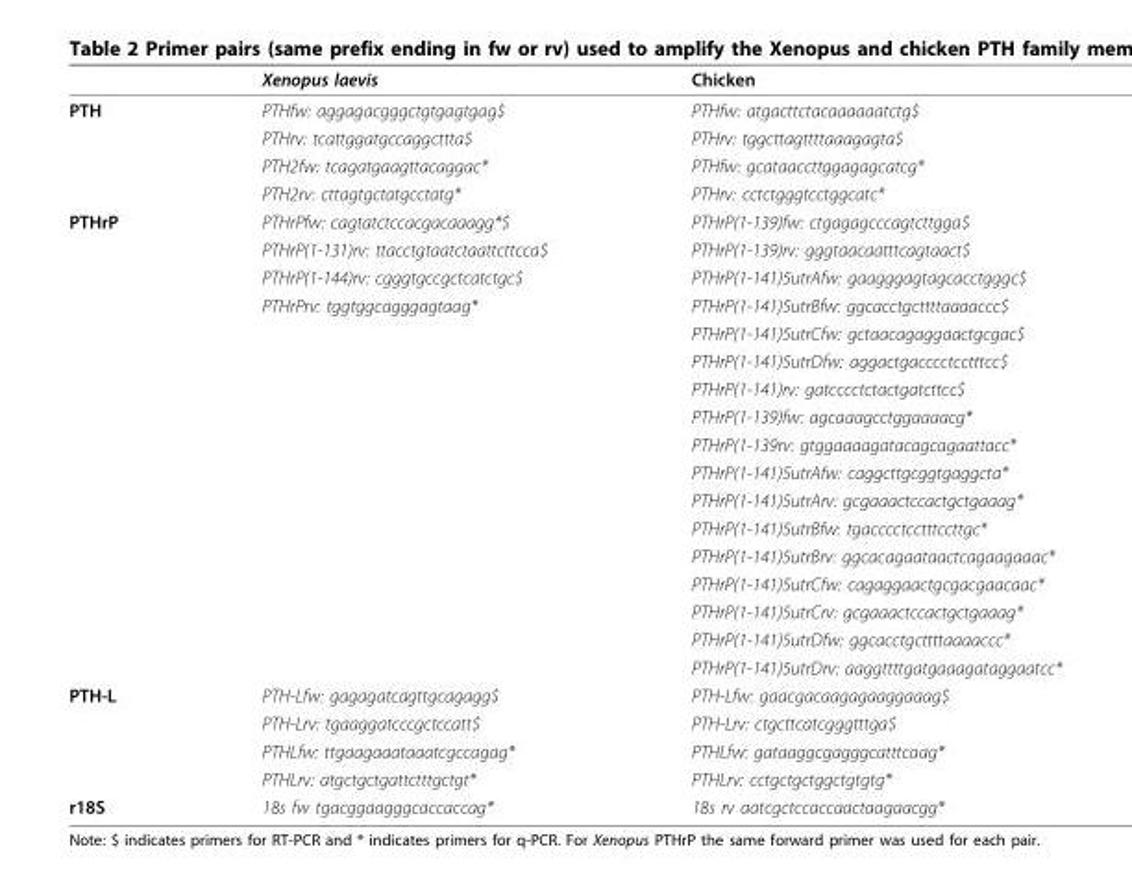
<table><thead><tr><td></td><td>Xenopus laevis</td><td>Chicken</td></tr></thead><tbody><tr><td rowspan="4">PTH</td><td>PTHfw: aggagacgggctgtgagtgag$</td><td>PTHfw: atgacttctacaaaaaatctg$</td></tr><tr><td>PTHrv: tcattggatgccaggcttta$</td><td>PTHrv: tggcttagttttaaagagta$</td></tr><tr><td>PTH2fw: tcagatgaagttacaggac*</td><td>PTHfw: gcataaccttggagagcatcg*</td></tr><tr><td>PTH2rv: cttagtgctatgcctatg*</td><td>PTHrv: cctctgggtcctggcatc*</td></tr><tr><td rowspan="17">PTHrP</td><td>PTHrPfw: cagtatctccacgacaaagg*$</td><td>PTHrP(1-139)fw: ctgagagcccagtcttgga$</td></tr><tr><td>PTHrP(1-131)rv: ttacctgtaatctaattcttcca$</td><td>PTHrP(1-139)rv: gggtaacaatttcagtaact$</td></tr><tr><td>PTHrP(1-144)rv: cgggtgccgctcatctgc$</td><td>PTHrP(1-141)5utrAfw: gaagggagtagcacctgggc$</td></tr><tr><td>PTHrPrv: tggtggcagggagtaag*</td><td>PTHrP(1-141)5utrBfw: ggcacctgcttttaaaaccc$</td></tr><tr><td></td><td>PTHrP(1-141)5utrCfw: gctaacagaggaactgcgac$</td></tr><tr><td></td><td>PTHrP(1-141)5utrDfw: aggactgacccctcctttcc$</td></tr><tr><td></td><td>PTHrP(1-141)rv: gatcccctctactgatcttcc$</td></tr><tr><td></td><td>PTHrP(1-139)fw: agcaaagcctggaaaacg*</td></tr><tr><td></td><td>PTHrP(1-139rv: gtggaaaagatacagcagaattacc*</td></tr><tr><td></td><td>PTHrP(1-141)5utrAfw: caggcttgcggtgaggcta*</td></tr><tr><td></td><td>PTHrP(1-141)5utrArv: gcgaaactccactgctgaaag*</td></tr><tr><td></td><td>PTHrP(1-141)5utrBfw: tgacccctcctttccttgc*</td></tr><tr><td></td><td>PTHrP(1-141)5utrBrv: ggcacagaataactcagaagaaac*</td></tr><tr><td></td><td>PTHrP(1-141)5utrCfw: cagaggaactgcgacgaacaac*</td></tr><tr><td></td><td>PTHrP(1-141)5utrCrv: gcgaaactccactgctgaaag*</td></tr><tr><td></td><td>PTHrP(1-141)5utrDfw: ggcacctgcttttaaaaccc*</td></tr><tr><td></td><td>PTHrP(1-141)5utrDrv: aaggttttgatgaaagataggaatcc*</td></tr><tr><td rowspan="4">PTH-L</td><td>PTH-Lfw: gagagatcagttgcagagg$</td><td>PTH-Lfw: gaacgacaagagaaggaaag$</td></tr><tr><td>PTH-Lrv: tgaaggatcccgctccatt$</td><td>PTH-Lrv: ctgcttcatcgggtttga$</td></tr><tr><td>PTHLfw: ttgaagaaataaatcgccagag*</td><td>PTHLfw: gataaggcgagggcatttcaag*</td></tr><tr><td>PTHLrv: atgctgctgattctttgctgt*</td><td>PTHLrv: cctgctgctggctgtgtg*</td></tr><tr><td>r18S</td><td>18s fw tgacggaagggcaccaccag*</td><td>18s rv aatcgctccaccaactaagaacgg*</td></tr></tbody></table>